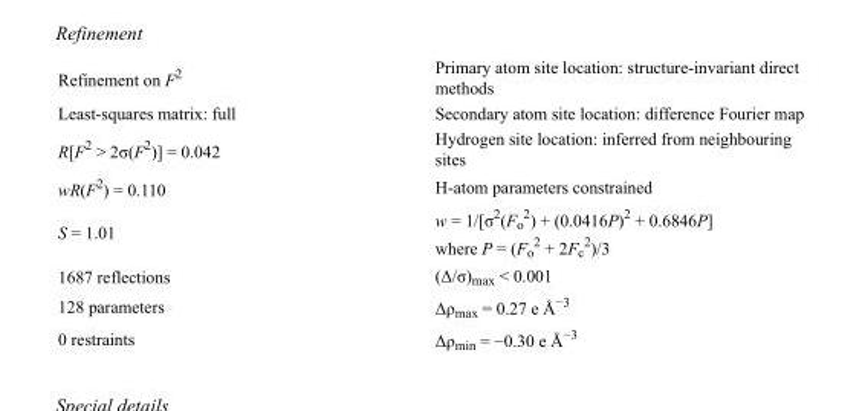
<table><tbody><tr><td>Refinement on F<sup>2</sup></td><td>Primary atom site location: structure-invariant direct methods</td></tr><tr><td>Least-squares matrix: full</td><td>Secondary atom site location: difference Fourier map</td></tr><tr><td>R[F<sup>2</sup> &gt; 2σ(F<sup>2</sup>)] = 0.042</td><td>Hydrogen site location: inferred from neighbouring sites</td></tr><tr><td>wR(F<sup>2</sup>) = 0.110</td><td>H-atom parameters constrained</td></tr><tr><td>S = 1.01</td><td>w = 1/[σ<sup>2</sup>(F<sub>o</sub> <sup>2</sup>) + (0.0416P)<sup>2</sup> + 0.6846P] where P = (F<sub>o</sub> <sup>2</sup> + 2F<sub>c</sub> <sup>2</sup>)/3</td></tr><tr><td>1687 reflections</td><td>(Δ/σ)<sub>max</sub> &lt; 0.001</td></tr><tr><td>128 parameters</td><td>Δρ<sub>max</sub> = 0.27 e Å<sup>−3</sup></td></tr><tr><td>0 restraints</td><td>Δρ<sub>min</sub> = −0.30 e Å<sup>−3</sup></td></tr></tbody></table>